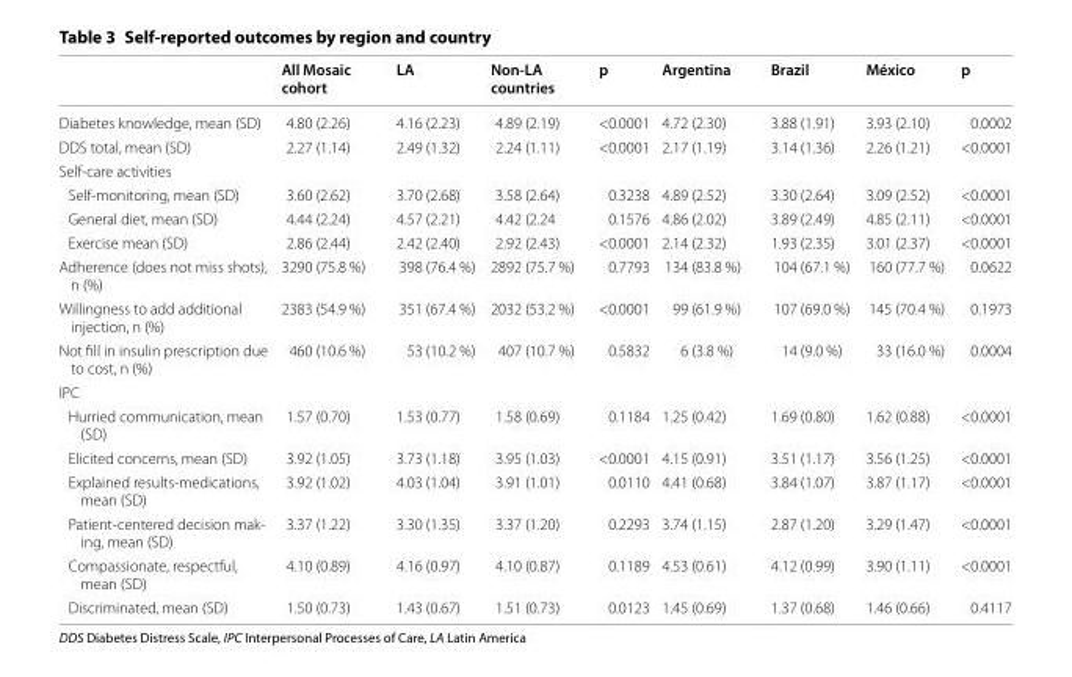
<table><thead><tr><td></td><td>All Mosaic cohort</td><td>LA</td><td>Non‑LA countries</td><td>p</td><td>Argentina</td><td>Brazil</td><td>México</td><td>p</td></tr></thead><tbody><tr><td>Diabetes knowledge, mean (SD)</td><td>4.80 (2.26)</td><td>4.16 (2.23)</td><td>4.89 (2.19)</td><td>&lt;0.0001</td><td>4.72 (2.30)</td><td>3.88 (1.91)</td><td>3.93 (2.10)</td><td>0.0002</td></tr><tr><td>DDS total, mean (SD)</td><td>2.27 (1.14)</td><td>2.49 (1.32)</td><td>2.24 (1.11)</td><td>&lt;0.0001</td><td>2.17 (1.19)</td><td>3.14 (1.36)</td><td>2.26 (1.21)</td><td>&lt;0.0001</td></tr><tr><td colspan="9">Self-care activities</td></tr><tr><td>Self-monitoring, mean (SD)</td><td>3.60 (2.62)</td><td>3.70 (2.68)</td><td>3.58 (2.64)</td><td>0.3238</td><td>4.89 (2.52)</td><td>3.30 (2.64)</td><td>3.09 (2.52)</td><td>&lt;0.0001</td></tr><tr><td>General diet, mean (SD)</td><td>4.44 (2.24)</td><td>4.57 (2.21)</td><td>4.42 (2.24</td><td>0.1576</td><td>4.86 (2.02)</td><td>3.89 (2.49)</td><td>4.85 (2.11)</td><td>&lt;0.0001</td></tr><tr><td>Exercise mean (SD)</td><td>2.86 (2.44)</td><td>2.42 (2.40)</td><td>2.92 (2.43)</td><td>&lt;0.0001</td><td>2.14 (2.32)</td><td>1.93 (2.35)</td><td>3.01 (2.37)</td><td>&lt;0.0001</td></tr><tr><td>Adherence (does not miss shots), n (%)</td><td>3290 (75.8 %)</td><td>398 (76.4 %)</td><td>2892 (75.7 %)</td><td>0.7793</td><td>134 (83.8 %)</td><td>104 (67.1 %)</td><td>160 (77.7 %)</td><td>0.0622</td></tr><tr><td>Willingness to add additional injection, n (%)</td><td>2383 (54.9 %)</td><td>351 (67.4 %)</td><td>2032 (53.2 %)</td><td>&lt;0.0001</td><td>99 (61.9 %)</td><td>107 (69.0 %)</td><td>145 (70.4 %)</td><td>0.1973</td></tr><tr><td>Not fill in insulin prescription due to cost, n (%)</td><td>460 (10.6 %)</td><td>53 (10.2 %)</td><td>407 (10.7 %)</td><td>0.5832</td><td>6 (3.8 %)</td><td>14 (9.0 %)</td><td>33 (16.0 %)</td><td>0.0004</td></tr><tr><td colspan="9">IPC</td></tr><tr><td>Hurried communication, mean (SD)</td><td>1.57 (0.70)</td><td>1.53 (0.77)</td><td>1.58 (0.69)</td><td>0.1184</td><td>1.25 (0.42)</td><td>1.69 (0.80)</td><td>1.62 (0.88)</td><td>&lt;0.0001</td></tr><tr><td>Elicited concerns, mean (SD)</td><td>3.92 (1.05)</td><td>3.73 (1.18)</td><td>3.95 (1.03)</td><td>&lt;0.0001</td><td>4.15 (0.91)</td><td>3.51 (1.17)</td><td>3.56 (1.25)</td><td>&lt;0.0001</td></tr><tr><td>Explained results-medications, mean (SD)</td><td>3.92 (1.02)</td><td>4.03 (1.04)</td><td>3.91 (1.01)</td><td>0.0110</td><td>4.41 (0.68)</td><td>3.84 (1.07)</td><td>3.87 (1.17)</td><td>&lt;0.0001</td></tr><tr><td>Patient-centered decision mak- ing, mean (SD)</td><td>3.37 (1.22)</td><td>3.30 (1.35)</td><td>3.37 (1.20)</td><td>0.2293</td><td>3.74 (1.15)</td><td>2.87 (1.20)</td><td>3.29 (1.47)</td><td>&lt;0.0001</td></tr><tr><td>Compassionate, respectful, mean (SD)</td><td>4.10 (0.89)</td><td>4.16 (0.97)</td><td>4.10 (0.87)</td><td>0.1189</td><td>4.53 (0.61)</td><td>4.12 (0.99)</td><td>3.90 (1.11)</td><td>&lt;0.0001</td></tr><tr><td>Discriminated, mean (SD)</td><td>1.50 (0.73)</td><td>1.43 (0.67)</td><td>1.51 (0.73)</td><td>0.0123</td><td>1.45 (0.69)</td><td>1.37 (0.68)</td><td>1.46 (0.66)</td><td>0.4117</td></tr></tbody></table>